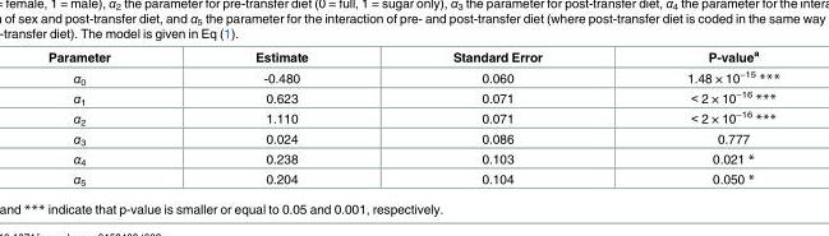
<table><thead><tr><td>Parameter</td><td>Estimate</td><td>Standard Error</td><td>P-value<sup>a</sup></td></tr></thead><tbody><tr><td>α<sub>0</sub></td><td>-0.480</td><td>0.060</td><td>1.48 × 10<sup>−15</sup> ***</td></tr><tr><td>α<sub>1</sub></td><td>0.623</td><td>0.071</td><td>&lt; 2 × 10<sup>−16</sup> ***</td></tr><tr><td>α<sub>2</sub></td><td>1.110</td><td>0.071</td><td>&lt; 2 × 10<sup>−16</sup> ***</td></tr><tr><td>α<sub>3</sub></td><td>0.024</td><td>0.086</td><td>0.777</td></tr><tr><td>α<sub>4</sub></td><td>0.238</td><td>0.103</td><td>0.021 *</td></tr><tr><td>α<sub>5</sub></td><td>0.204</td><td>0.104</td><td>0.050 *</td></tr></tbody></table>